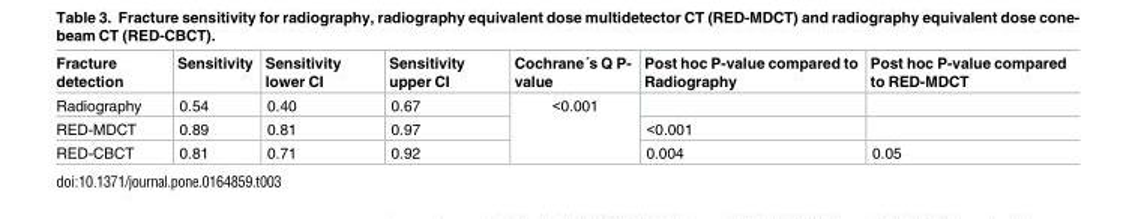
<table><thead><tr><td>Fracture detection</td><td>Sensitivity</td><td>Sensitivity lower CI</td><td>Sensitivity upper CI</td><td>Cochrane´s Q P- value</td><td>Post hoc P-value compared to Radiography</td><td>Post hoc P-value compared to RED-MDCT</td></tr></thead><tbody><tr><td>Radiography</td><td>0.54</td><td>0.40</td><td>0.67</td><td rowspan="3">&lt;0.001</td><td></td><td></td></tr><tr><td>RED-MDCT</td><td>0.89</td><td>0.81</td><td>0.97</td><td>&lt;0.001</td><td></td></tr><tr><td>RED-CBCT</td><td>0.81</td><td>0.71</td><td>0.92</td><td>0.004</td><td>0.05</td></tr></tbody></table>